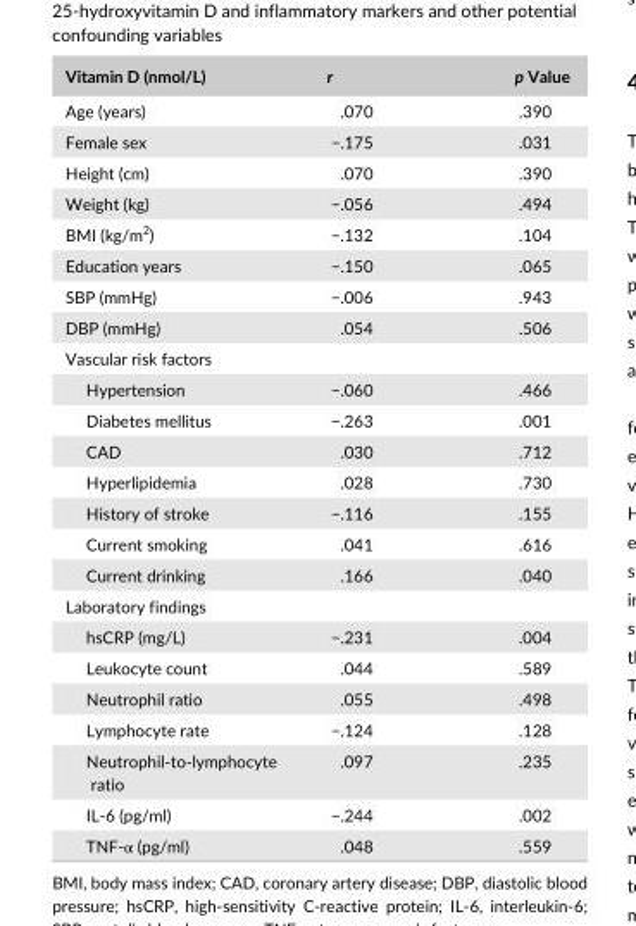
<table><thead><tr><td>Vitamin D (nmol/L)</td><td>r</td><td>p Value</td></tr></thead><tbody><tr><td>Age (years)</td><td>.070</td><td>.390</td></tr><tr><td>Female sex</td><td>−.175</td><td>.031</td></tr><tr><td>Height (cm)</td><td>.070</td><td>.390</td></tr><tr><td>Weight (kg)</td><td>−.056</td><td>.494</td></tr><tr><td>BMI (kg/m<sup>2</sup>)</td><td>−.132</td><td>.104</td></tr><tr><td>Education years</td><td>−.150</td><td>.065</td></tr><tr><td>SBP (mmHg)</td><td>−.006</td><td>.943</td></tr><tr><td>DBP (mmHg)</td><td>.054</td><td>.506</td></tr><tr><td colspan="3">Vascular risk factors</td></tr><tr><td>Hypertension</td><td>−.060</td><td>.466</td></tr><tr><td>Diabetes mellitus</td><td>−.263</td><td>.001</td></tr><tr><td>CAD</td><td>.030</td><td>.712</td></tr><tr><td>Hyperlipidemia</td><td>.028</td><td>.730</td></tr><tr><td>History of stroke</td><td>−.116</td><td>.155</td></tr><tr><td>Current smoking</td><td>.041</td><td>.616</td></tr><tr><td>Current drinking</td><td>.166</td><td>.040</td></tr><tr><td colspan="3">Laboratory findings</td></tr><tr><td>hsCRP (mg/L)</td><td>−.231</td><td>.004</td></tr><tr><td>Leukocyte count</td><td>.044</td><td>.589</td></tr><tr><td>Neutrophil ratio</td><td>.055</td><td>.498</td></tr><tr><td>Lymphocyte rate</td><td>−.124</td><td>.128</td></tr><tr><td>Neutrophil- to- lymphocyte ratio</td><td>.097</td><td>.235</td></tr><tr><td>IL- 6 (pg/ml)</td><td>−.244</td><td>.002</td></tr><tr><td>TNF- α (pg/ml)</td><td>.048</td><td>.559</td></tr></tbody></table>